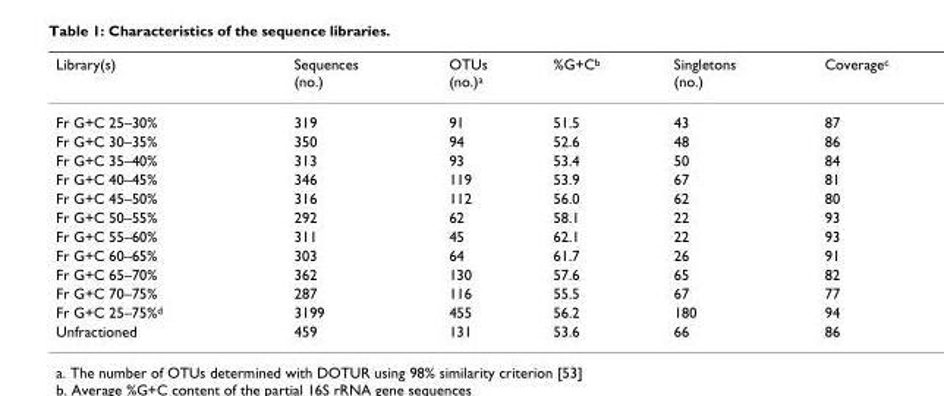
<table><thead><tr><td>Library(s)</td><td>Sequences (no.)</td><td>OTUs (no.)<sup>a</sup></td><td>%G+C<sup>b</sup></td><td>Singletons (no.)</td><td>Coverage<sup>c</sup></td></tr></thead><tbody><tr><td>Fr G+C 25–30%</td><td>319</td><td>91</td><td>51.5</td><td>43</td><td>87</td></tr><tr><td>Fr G+C 30–35%</td><td>350</td><td>94</td><td>52.6</td><td>48</td><td>86</td></tr><tr><td>Fr G+C 35–40%</td><td>313</td><td>93</td><td>53.4</td><td>50</td><td>84</td></tr><tr><td>Fr G+C 40–45%</td><td>346</td><td>119</td><td>53.9</td><td>67</td><td>81</td></tr><tr><td>Fr G+C 45–50%</td><td>316</td><td>112</td><td>56.0</td><td>62</td><td>80</td></tr><tr><td>Fr G+C 50–55%</td><td>292</td><td>62</td><td>58.1</td><td>22</td><td>93</td></tr><tr><td>Fr G+C 55–60%</td><td>311</td><td>45</td><td>62.1</td><td>22</td><td>93</td></tr><tr><td>Fr G+C 60–65%</td><td>303</td><td>64</td><td>61.7</td><td>26</td><td>91</td></tr><tr><td>Fr G+C 65–70%</td><td>362</td><td>130</td><td>57.6</td><td>65</td><td>82</td></tr><tr><td>Fr G+C 70–75%</td><td>287</td><td>116</td><td>55.5</td><td>67</td><td>77</td></tr><tr><td>Fr G+C 25–75%<sup>d</sup></td><td>3199</td><td>455</td><td>56.2</td><td>180</td><td>94</td></tr><tr><td>Unfractioned</td><td>459</td><td>131</td><td>53.6</td><td>66</td><td>86</td></tr></tbody></table>